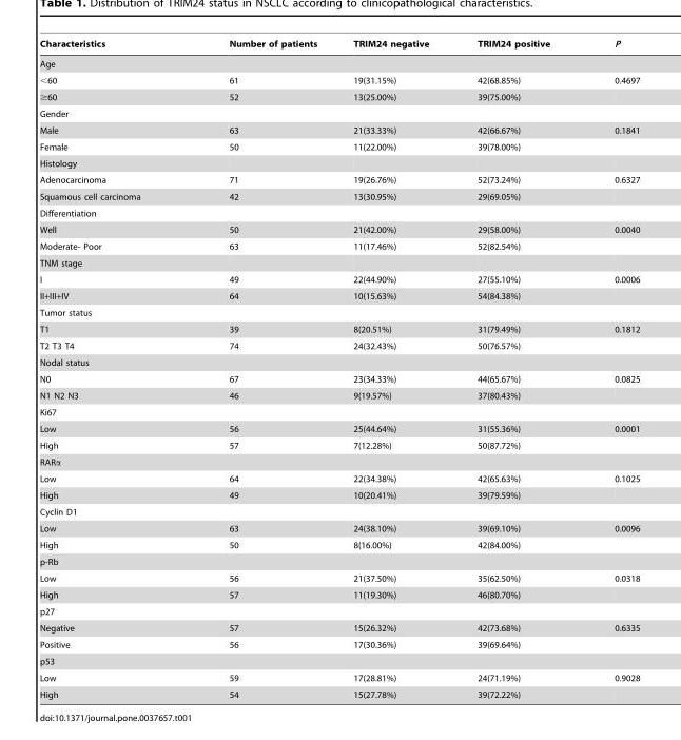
<table><thead><tr><td>Characteristics</td><td>Number of patients</td><td>TRIM24 negative</td><td>TRIM24 positive</td><td>P</td></tr></thead><tbody><tr><td colspan="5">Age</td></tr><tr><td>&lt;60</td><td>61</td><td>19(31.15%)</td><td>42(68.85%)</td><td>0.4697</td></tr><tr><td>≥60</td><td>52</td><td>13(25.00%)</td><td>39(75.00%)</td><td></td></tr><tr><td colspan="5">Gender</td></tr><tr><td>Male</td><td>63</td><td>21(33.33%)</td><td>42(66.67%)</td><td>0.1841</td></tr><tr><td>Female</td><td>50</td><td>11(22.00%)</td><td>39(78.00%)</td><td></td></tr><tr><td colspan="5">Histology</td></tr><tr><td>Adenocarcinoma</td><td>71</td><td>19(26.76%)</td><td>52(73.24%)</td><td>0.6327</td></tr><tr><td>Squamous cell carcinoma</td><td>42</td><td>13(30.95%)</td><td>29(69.05%)</td><td></td></tr><tr><td colspan="5">Differentiation</td></tr><tr><td>Well</td><td>50</td><td>21(42.00%)</td><td>29(58.00%)</td><td>0.0040</td></tr><tr><td>Moderate- Poor</td><td>63</td><td>11(17.46%)</td><td>52(82.54%)</td><td></td></tr><tr><td colspan="5">TNM stage</td></tr><tr><td>I</td><td>49</td><td>22(44.90%)</td><td>27(55.10%)</td><td>0.0006</td></tr><tr><td>II+III+IV</td><td>64</td><td>10(15.63%)</td><td>54(84.38%)</td><td></td></tr><tr><td colspan="5">Tumor status</td></tr><tr><td>T1</td><td>39</td><td>8(20.51%)</td><td>31(79.49%)</td><td>0.1812</td></tr><tr><td>T2 T3 T4</td><td>74</td><td>24(32.43%)</td><td>50(76.57%)</td><td></td></tr><tr><td colspan="5">Nodal status</td></tr><tr><td>N0</td><td>67</td><td>23(34.33%)</td><td>44(65.67%)</td><td>0.0825</td></tr><tr><td>N1 N2 N3</td><td>46</td><td>9(19.57%)</td><td>37(80.43%)</td><td></td></tr><tr><td colspan="5">Ki67</td></tr><tr><td>Low</td><td>56</td><td>25(44.64%)</td><td>31(55.36%)</td><td>0.0001</td></tr><tr><td>High</td><td>57</td><td>7(12.28%)</td><td>50(87.72%)</td><td></td></tr><tr><td colspan="5">RARα</td></tr><tr><td>Low</td><td>64</td><td>22(34.38%)</td><td>42(65.63%)</td><td>0.1025</td></tr><tr><td>High</td><td>49</td><td>10(20.41%)</td><td>39(79.59%)</td><td></td></tr><tr><td colspan="5">Cyclin D1</td></tr><tr><td>Low</td><td>63</td><td>24(38.10%)</td><td>39(69.10%)</td><td>0.0096</td></tr><tr><td>High</td><td>50</td><td>8(16.00%)</td><td>42(84.00%)</td><td></td></tr><tr><td colspan="5">p-Rb</td></tr><tr><td>Low</td><td>56</td><td>21(37.50%)</td><td>35(62.50%)</td><td>0.0318</td></tr><tr><td>High</td><td>57</td><td>11(19.30%)</td><td>46(80.70%)</td><td></td></tr><tr><td colspan="5">p27</td></tr><tr><td>Negative</td><td>57</td><td>15(26.32%)</td><td>42(73.68%)</td><td>0.6335</td></tr><tr><td>Positive</td><td>56</td><td>17(30.36%)</td><td>39(69.64%)</td><td></td></tr><tr><td colspan="5">p53</td></tr><tr><td>Low</td><td>59</td><td>17(28.81%)</td><td>24(71.19%)</td><td>0.9028</td></tr><tr><td>High</td><td>54</td><td>15(27.78%)</td><td>39(72.22%)</td><td></td></tr></tbody></table>